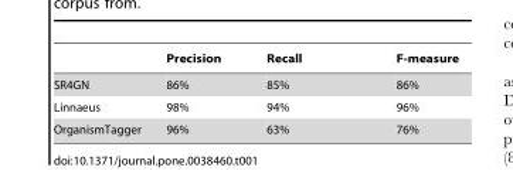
<table><thead><tr><td></td><td>Precision</td><td>Recall</td><td>F-measure</td></tr></thead><tbody><tr><td>SR4GN</td><td>86%</td><td>85%</td><td>86%</td></tr><tr><td>Linnaeus</td><td>98%</td><td>94%</td><td>96%</td></tr><tr><td>OrganismTagger</td><td>96%</td><td>63%</td><td>76%</td></tr></tbody></table>